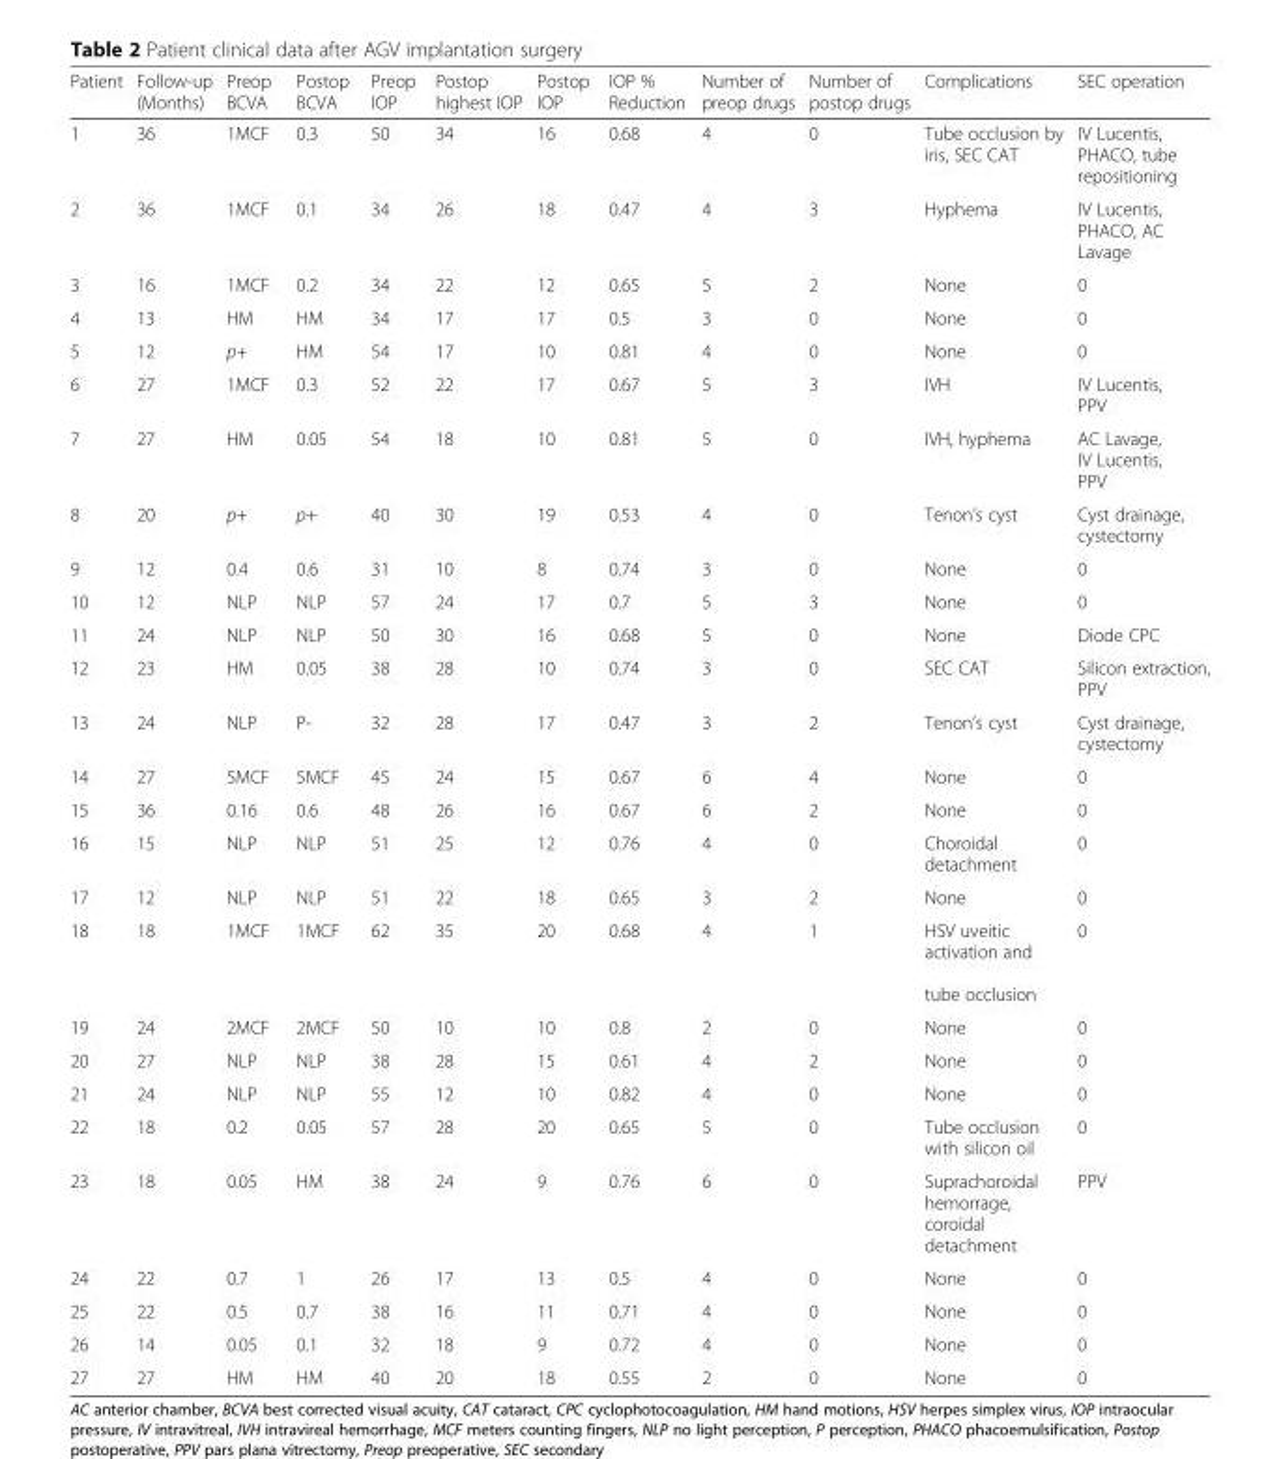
<table><thead><tr><td>Patient</td><td>Follow-up (Months)</td><td>Preop BCVA</td><td>Postop BCVA</td><td>Preop IOP</td><td>Postop highest IOP</td><td>Postop IOP</td><td>IOP % Reduction</td><td>Number of preop drugs</td><td>Number of postop drugs</td><td>Complications</td><td>SEC operation</td></tr></thead><tbody><tr><td>1</td><td>36</td><td>1MCF</td><td>0.3</td><td>50</td><td>34</td><td>16</td><td>0.68</td><td>4</td><td>0</td><td>Tube occlusion by iris, SEC CAT</td><td>IV Lucentis, PHACO, tube repositioning</td></tr><tr><td>2</td><td>36</td><td>1MCF</td><td>0.1</td><td>34</td><td>26</td><td>18</td><td>0.47</td><td>4</td><td>3</td><td>Hyphema</td><td>IV Lucentis, PHACO, AC Lavage</td></tr><tr><td>3</td><td>16</td><td>1MCF</td><td>0.2</td><td>34</td><td>22</td><td>12</td><td>0.65</td><td>5</td><td>2</td><td>None</td><td>0</td></tr><tr><td>4</td><td>13</td><td>HM</td><td>HM</td><td>34</td><td>17</td><td>17</td><td>0.5</td><td>3</td><td>0</td><td>None</td><td>0</td></tr><tr><td>5</td><td>12</td><td>p+</td><td>HM</td><td>54</td><td>17</td><td>10</td><td>0.81</td><td>4</td><td>0</td><td>None</td><td>0</td></tr><tr><td>6</td><td>27</td><td>1MCF</td><td>0.3</td><td>52</td><td>22</td><td>17</td><td>0.67</td><td>5</td><td>3</td><td>IVH</td><td>IV Lucentis, PPV</td></tr><tr><td>7</td><td>27</td><td>HM</td><td>0.05</td><td>54</td><td>18</td><td>10</td><td>0.81</td><td>5</td><td>0</td><td>IVH, hyphema</td><td>AC Lavage, IV Lucentis, PPV</td></tr><tr><td>8</td><td>20</td><td>p+</td><td>p+</td><td>40</td><td>30</td><td>19</td><td>0.53</td><td>4</td><td>0</td><td>Tenon’s cyst</td><td>Cyst drainage, cystectomy</td></tr><tr><td>9</td><td>12</td><td>0.4</td><td>0.6</td><td>31</td><td>10</td><td>8</td><td>0.74</td><td>3</td><td>0</td><td>None</td><td>0</td></tr><tr><td>10</td><td>12</td><td>NLP</td><td>NLP</td><td>57</td><td>24</td><td>17</td><td>0.7</td><td>5</td><td>3</td><td>None</td><td>0</td></tr><tr><td>11</td><td>24</td><td>NLP</td><td>NLP</td><td>50</td><td>30</td><td>16</td><td>0.68</td><td>5</td><td>0</td><td>None</td><td>Diode CPC</td></tr><tr><td>12</td><td>23</td><td>HM</td><td>0.05</td><td>38</td><td>28</td><td>10</td><td>0.74</td><td>3</td><td>0</td><td>SEC CAT</td><td>Silicon extraction, PPV</td></tr><tr><td>13</td><td>24</td><td>NLP</td><td>P-</td><td>32</td><td>28</td><td>17</td><td>0.47</td><td>3</td><td>2</td><td>Tenon’s cyst</td><td>Cyst drainage, cystectomy</td></tr><tr><td>14</td><td>27</td><td>5MCF</td><td>5MCF</td><td>45</td><td>24</td><td>15</td><td>0.67</td><td>6</td><td>4</td><td>None</td><td>0</td></tr><tr><td>15</td><td>36</td><td>0.16</td><td>0.6</td><td>48</td><td>26</td><td>16</td><td>0.67</td><td>6</td><td>2</td><td>None</td><td>0</td></tr><tr><td>16</td><td>15</td><td>NLP</td><td>NLP</td><td>51</td><td>25</td><td>12</td><td>0.76</td><td>4</td><td>0</td><td>Choroidal detachment</td><td>0</td></tr><tr><td>17</td><td>12</td><td>NLP</td><td>NLP</td><td>51</td><td>22</td><td>18</td><td>0.65</td><td>3</td><td>2</td><td>None</td><td>0</td></tr><tr><td>18</td><td>18</td><td>1MCF</td><td>1MCF</td><td>62</td><td>35</td><td>20</td><td>0.68</td><td>4</td><td>1</td><td>HSV uveitic activation and tube occlusion</td><td>0</td></tr><tr><td>19</td><td>24</td><td>2MCF</td><td>2MCF</td><td>50</td><td>10</td><td>10</td><td>0.8</td><td>2</td><td>0</td><td>None</td><td>0</td></tr><tr><td>20</td><td>27</td><td>NLP</td><td>NLP</td><td>38</td><td>28</td><td>15</td><td>0.61</td><td>4</td><td>2</td><td>None</td><td>0</td></tr><tr><td>21</td><td>24</td><td>NLP</td><td>NLP</td><td>55</td><td>12</td><td>10</td><td>0.82</td><td>4</td><td>0</td><td>None</td><td>0</td></tr><tr><td>22</td><td>18</td><td>0.2</td><td>0.05</td><td>57</td><td>28</td><td>20</td><td>0.65</td><td>5</td><td>0</td><td>Tube occlusion with silicon oil</td><td>0</td></tr><tr><td>23</td><td>18</td><td>0.05</td><td>HM</td><td>38</td><td>24</td><td>9</td><td>0.76</td><td>6</td><td>0</td><td>Suprachoroidal hemorrage, coroidal detachment</td><td>PPV</td></tr><tr><td>24</td><td>22</td><td>0.7</td><td>1</td><td>26</td><td>17</td><td>13</td><td>0.5</td><td>4</td><td>0</td><td>None</td><td>0</td></tr><tr><td>25</td><td>22</td><td>0.5</td><td>0.7</td><td>38</td><td>16</td><td>11</td><td>0.71</td><td>4</td><td>0</td><td>None</td><td>0</td></tr><tr><td>26</td><td>14</td><td>0.05</td><td>0.1</td><td>32</td><td>18</td><td>9</td><td>0.72</td><td>4</td><td>0</td><td>None</td><td>0</td></tr><tr><td>27</td><td>27</td><td>HM</td><td>HM</td><td>40</td><td>20</td><td>18</td><td>0.55</td><td>2</td><td>0</td><td>None</td><td>0</td></tr></tbody></table>